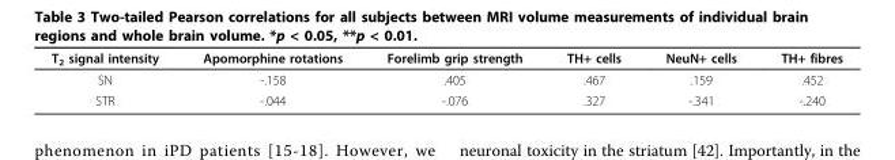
<table><thead><tr><td>T<sub>2</sub> signal intensity</td><td>Apomorphine rotations</td><td>Forelimb grip strength</td><td>TH+ cells</td><td>NeuN+ cells</td><td>TH+ fibres</td></tr></thead><tbody><tr><td>SN</td><td>-.158</td><td>.405</td><td>.467</td><td>.159</td><td>.452</td></tr><tr><td>STR</td><td>-.044</td><td>-.076</td><td>.327</td><td>-.341</td><td>-.240</td></tr></tbody></table>